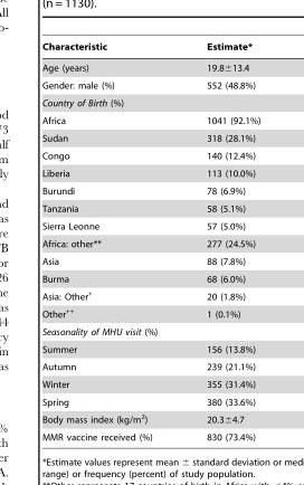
<table><thead><tr><td>Characteristic</td><td>Estimate*</td></tr></thead><tbody><tr><td>Age (years)</td><td>19.8±13.4</td></tr><tr><td>Gender: male (%)</td><td>552 (48.8%)</td></tr><tr><td colspan="2">Country of Birth (%)</td></tr><tr><td>Africa</td><td>1041 (92.1%)</td></tr><tr><td>Sudan</td><td>318 (28.1%)</td></tr><tr><td>Congo</td><td>140 (12.4%)</td></tr><tr><td>Liberia</td><td>113 (10.0%)</td></tr><tr><td>Burundi</td><td>78 (6.9%)</td></tr><tr><td>Tanzania</td><td>58 (5.1%)</td></tr><tr><td>Sierra Leonne</td><td>57 (5.0%)</td></tr><tr><td>Africa: other**</td><td>277 (24.5%)</td></tr><tr><td>Asia</td><td>88 (7.8%)</td></tr><tr><td>Burma</td><td>68 (6.0%)</td></tr><tr><td>Asia: Other+</td><td>20 (1.8%)</td></tr><tr><td>Other++</td><td>1 (0.1%)</td></tr><tr><td colspan="2">Seasonality of MHU visit (%)</td></tr><tr><td>Summer</td><td>156 (13.8%)</td></tr><tr><td>Autumn</td><td>239 (21.1%)</td></tr><tr><td>Winter</td><td>355 (31.4%)</td></tr><tr><td>Spring</td><td>380 (33.6%)</td></tr><tr><td>Body mass index (kg/m<sup>2</sup>)</td><td>20.3±4.7</td></tr><tr><td>MMR vaccine received (%)</td><td>830 (73.4%)</td></tr></tbody></table>